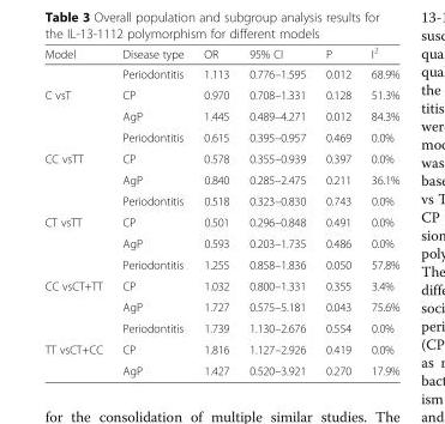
<table><thead><tr><td>Model</td><td>Disease type</td><td>OR</td><td>95% CI</td><td>P</td><td>I<sup>2</sup></td></tr></thead><tbody><tr><td></td><td>Periodontitis</td><td>1.113</td><td>0.776–1.595</td><td>0.012</td><td>68.9%</td></tr><tr><td rowspan="3">C vsT</td><td>CP</td><td>0.970</td><td>0.708–1.331</td><td>0.128</td><td>51.3%</td></tr><tr><td>AgP</td><td>1.445</td><td>0.489–4.271</td><td>0.012</td><td>84.3%</td></tr><tr><td>Periodontitis</td><td>0.615</td><td>0.395–0.957</td><td>0.469</td><td>0.0%</td></tr><tr><td rowspan="3">CC vsTT</td><td>CP</td><td>0.578</td><td>0.355–0.939</td><td>0.397</td><td>0.0%</td></tr><tr><td>AgP</td><td>0.840</td><td>0.285–2.475</td><td>0.211</td><td>36.1%</td></tr><tr><td>Periodontitis</td><td>0.518</td><td>0.323–0.830</td><td>0.743</td><td>0.0%</td></tr><tr><td rowspan="3">CT vsTT</td><td>CP</td><td>0.501</td><td>0.296–0.848</td><td>0.491</td><td>0.0%</td></tr><tr><td>AgP</td><td>0.593</td><td>0.203–1.735</td><td>0.486</td><td>0.0%</td></tr><tr><td>Periodontitis</td><td>1.255</td><td>0.858–1.836</td><td>0.050</td><td>57.8%</td></tr><tr><td rowspan="3">CC vsCT+TT</td><td>CP</td><td>1.032</td><td>0.800–1.331</td><td>0.355</td><td>3.4%</td></tr><tr><td>AgP</td><td>1.727</td><td>0.575–5.181</td><td>0.043</td><td>75.6%</td></tr><tr><td>Periodontitis</td><td>1.739</td><td>1.130–2.676</td><td>0.554</td><td>0.0%</td></tr><tr><td rowspan="2">TT vsCT+CC</td><td>CP</td><td>1.816</td><td>1.127–2.926</td><td>0.419</td><td>0.0%</td></tr><tr><td>AgP</td><td>1.427</td><td>0.520–3.921</td><td>0.270</td><td>17.9%</td></tr></tbody></table>